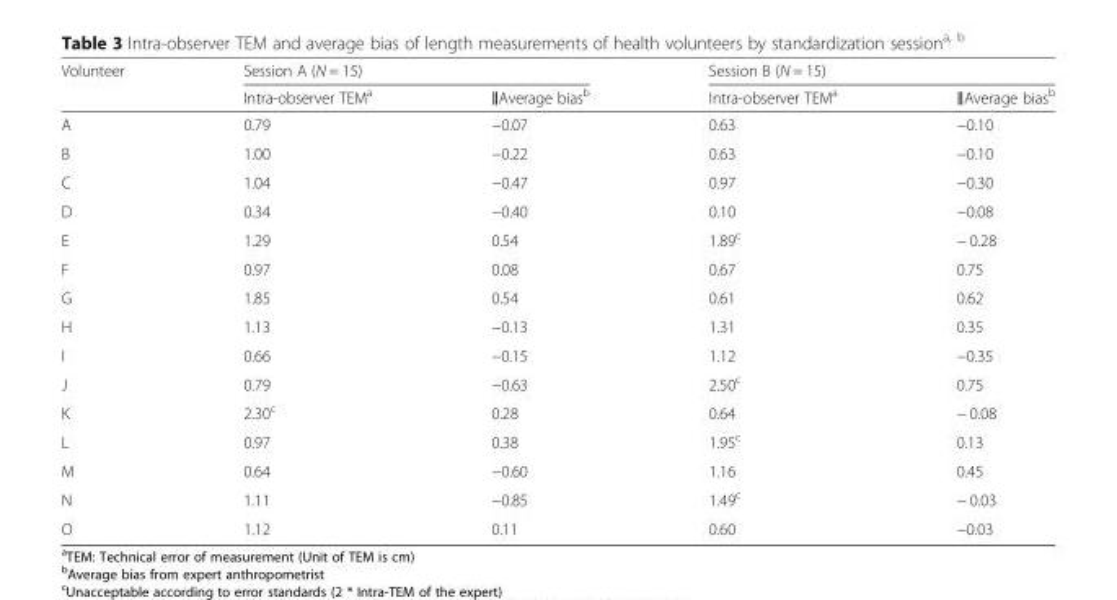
<table><thead><tr><td rowspan="2">Volunteer</td><td colspan="2">Session A (N = 15)</td><td colspan="2">Session B (N = 15)</td></tr><tr><td>Intra-observer TEM<sup>a</sup></td><td>‖Average bias<sup>b</sup></td><td>Intra-observer TEM<sup>a</sup></td><td>‖Average bias<sup>b</sup></td></tr></thead><tbody><tr><td>A</td><td>0.79</td><td>−0.07</td><td>0.63</td><td>−0.10</td></tr><tr><td>B</td><td>1.00</td><td>−0.22</td><td>0.63</td><td>−0.10</td></tr><tr><td>C</td><td>1.04</td><td>−0.47</td><td>0.97</td><td>−0.30</td></tr><tr><td>D</td><td>0.34</td><td>−0.40</td><td>0.10</td><td>−0.08</td></tr><tr><td>E</td><td>1.29</td><td>0.54</td><td>1.89<sup>c</sup></td><td>− 0.28</td></tr><tr><td>F</td><td>0.97</td><td>0.08</td><td>0.67</td><td>0.75</td></tr><tr><td>G</td><td>1.85</td><td>0.54</td><td>0.61</td><td>0.62</td></tr><tr><td>H</td><td>1.13</td><td>−0.13</td><td>1.31</td><td>0.35</td></tr><tr><td>I</td><td>0.66</td><td>−0.15</td><td>1.12</td><td>−0.35</td></tr><tr><td>J</td><td>0.79</td><td>−0.63</td><td>2.50<sup>c</sup></td><td>0.75</td></tr><tr><td>K</td><td>2.30<sup>c</sup></td><td>0.28</td><td>0.64</td><td>− 0.08</td></tr><tr><td>L</td><td>0.97</td><td>0.38</td><td>1.95<sup>c</sup></td><td>0.13</td></tr><tr><td>M</td><td>0.64</td><td>−0.60</td><td>1.16</td><td>0.45</td></tr><tr><td>N</td><td>1.11</td><td>−0.85</td><td>1.49<sup>c</sup></td><td>− 0.03</td></tr><tr><td>O</td><td>1.12</td><td>0.11</td><td>0.60</td><td>−0.03</td></tr></tbody></table>